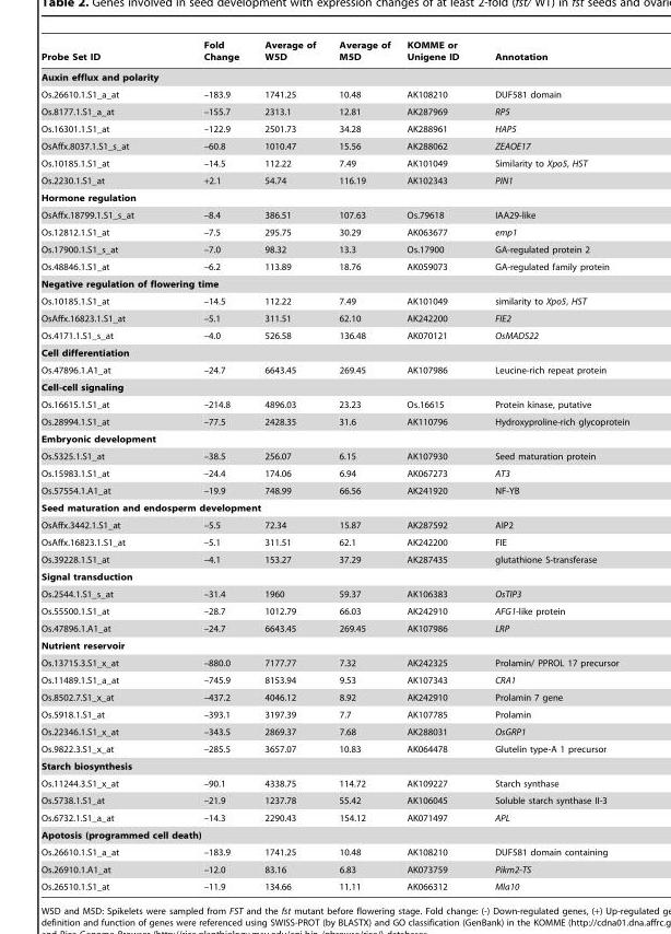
<table><thead><tr><td>Probe Set ID</td><td>Fold Change</td><td>Average of W5D</td><td>Average of M5D</td><td>KOMME or Unigene ID</td><td>Annotation</td></tr></thead><tbody><tr><td colspan="6">Auxin efflux and polarity</td></tr><tr><td>Os.26610.1.S1_a_at</td><td>–183.9</td><td>1741.25</td><td>10.48</td><td>AK108210</td><td>DUF581 domain</td></tr><tr><td>Os.8177.1.S1_a_at</td><td>–155.7</td><td>2313.1</td><td>12.81</td><td>AK287969</td><td>RP5</td></tr><tr><td>Os.16301.1.S1_at</td><td>–122.9</td><td>2501.73</td><td>34.28</td><td>AK288961</td><td>HAP5</td></tr><tr><td>OsAffx.8037.1.S1_s_at</td><td>–60.8</td><td>1010.47</td><td>15.56</td><td>AK288062</td><td>ZEAOE17</td></tr><tr><td>Os.10185.1.S1_at</td><td>–14.5</td><td>112.22</td><td>7.49</td><td>AK101049</td><td>Similarity to Xpo5, HST</td></tr><tr><td>Os.2230.1.S1_at</td><td>+2.1</td><td>54.74</td><td>116.19</td><td>AK102343</td><td>PIN1</td></tr><tr><td colspan="6">Hormone regulation</td></tr><tr><td>OsAffx.18799.1.S1_s_at</td><td>–8.4</td><td>386.51</td><td>107.63</td><td>Os.79618</td><td>IAA29-like</td></tr><tr><td>Os.12812.1.S1_at</td><td>–7.5</td><td>295.75</td><td>30.29</td><td>AK063677</td><td>emp1</td></tr><tr><td>Os.17900.1.S1_s_at</td><td>–7.0</td><td>98.32</td><td>13.3</td><td>Os.17900</td><td>GA-regulated protein 2</td></tr><tr><td>Os.48846.1.S1_at</td><td>–6.2</td><td>113.89</td><td>18.76</td><td>AK059073</td><td>GA-regulated family protein</td></tr><tr><td colspan="6">Negative regulation of flowering time</td></tr><tr><td>Os.10185.1.S1_at</td><td>–14.5</td><td>112.22</td><td>7.49</td><td>AK101049</td><td>similarity to Xpo5, HST</td></tr><tr><td>OsAffx.16823.1.S1_at</td><td>–5.1</td><td>311.51</td><td>62.10</td><td>AK242200</td><td>FIE2</td></tr><tr><td>Os.4171.1.S1_s_at</td><td>–4.0</td><td>526.58</td><td>136.48</td><td>AK070121</td><td>OsMADS22</td></tr><tr><td colspan="6">Cell differentiation</td></tr><tr><td>Os.47896.1.A1_at</td><td>–24.7</td><td>6643.45</td><td>269.45</td><td>AK107986</td><td>Leucine-rich repeat protein</td></tr><tr><td colspan="6">Cell-cell signaling</td></tr><tr><td>Os.16615.1.S1_at</td><td>–214.8</td><td>4896.03</td><td>23.23</td><td>Os.16615</td><td>Protein kinase, putative</td></tr><tr><td>Os.28994.1.S1_at</td><td>–77.5</td><td>2428.35</td><td>31.6</td><td>AK110796</td><td>Hydroxyproline-rich glycoprotein</td></tr><tr><td colspan="6">Embryonic development</td></tr><tr><td>Os.5325.1.S1_at</td><td>–38.5</td><td>256.07</td><td>6.15</td><td>AK107930</td><td>Seed maturation protein</td></tr><tr><td>Os.15983.1.S1_at</td><td>–24.4</td><td>174.06</td><td>6.94</td><td>AK067273</td><td>AT3</td></tr><tr><td>Os.57554.1.A1_at</td><td>–19.9</td><td>748.99</td><td>66.56</td><td>AK241920</td><td>NF-YB</td></tr><tr><td colspan="6">Seed maturation and endosperm development</td></tr><tr><td>OsAffx.3442.1.S1_at</td><td>–5.5</td><td>72.34</td><td>15.87</td><td>AK287592</td><td>AIP2</td></tr><tr><td>OsAffx.16823.1.S1_at</td><td>–5.1</td><td>311.51</td><td>62.1</td><td>AK242200</td><td>FIE</td></tr><tr><td>Os.39228.1.S1_at</td><td>–4.1</td><td>153.27</td><td>37.29</td><td>AK287435</td><td>glutathione S-transferase</td></tr><tr><td colspan="6">Signal transduction</td></tr><tr><td>Os.2544.1.S1_s_at</td><td>–31.4</td><td>1960</td><td>59.37</td><td>AK106383</td><td>OsTIP3</td></tr><tr><td>Os.55500.1.S1_at</td><td>–28.7</td><td>1012.79</td><td>66.03</td><td>AK242910</td><td>AFG1-like protein</td></tr><tr><td>Os.47896.1.A1_at</td><td>–24.7</td><td>6643.45</td><td>269.45</td><td>AK107986</td><td>LRP</td></tr><tr><td colspan="6">Nutrient reservoir</td></tr><tr><td>Os.13715.3.S1_x_at</td><td>–880.0</td><td>7177.77</td><td>7.32</td><td>AK242325</td><td>Prolamin/ PPROL 17 precursor</td></tr><tr><td>Os.11489.1.S1_a_at</td><td>–745.9</td><td>8153.94</td><td>9.53</td><td>AK107343</td><td>CRA1</td></tr><tr><td>Os.8502.7.S1_x_at</td><td>–437.2</td><td>4046.12</td><td>8.92</td><td>AK242910</td><td>Prolamin 7 gene</td></tr><tr><td>Os.5918.1.S1_at</td><td>–393.1</td><td>3197.39</td><td>7.7</td><td>AK107785</td><td>Prolamin</td></tr><tr><td>Os.22346.1.S1_x_at</td><td>–343.5</td><td>2869.37</td><td>7.68</td><td>AK288031</td><td>OsGRP1</td></tr><tr><td>Os.9822.3.S1_x_at</td><td>–285.5</td><td>3657.07</td><td>10.83</td><td>AK064478</td><td>Glutelin type-A 1 precursor</td></tr><tr><td colspan="6">Starch biosynthesis</td></tr><tr><td>Os.11244.3.S1_x_at</td><td>–90.1</td><td>4338.75</td><td>114.72</td><td>AK109227</td><td>Starch synthase</td></tr><tr><td>Os.5738.1.S1_at</td><td>–21.9</td><td>1237.78</td><td>55.42</td><td>AK106045</td><td>Soluble starch synthase II-3</td></tr><tr><td>Os.6732.1.S1_a_at</td><td>–14.3</td><td>2290.43</td><td>154.12</td><td>AK071497</td><td>APL</td></tr><tr><td colspan="6">Apotosis (programmed cell death)</td></tr><tr><td>Os.26610.1.S1_a_at</td><td>–183.9</td><td>1741.25</td><td>10.48</td><td>AK108210</td><td>DUF581 domain containing</td></tr><tr><td>Os.26910.1.A1_at</td><td>–12.0</td><td>83.16</td><td>6.83</td><td>AK073759</td><td>Pikm2-TS</td></tr><tr><td>Os.26510.1.S1_at</td><td>–11.9</td><td>134.66</td><td>11.11</td><td>AK066312</td><td>Mla10</td></tr></tbody></table>